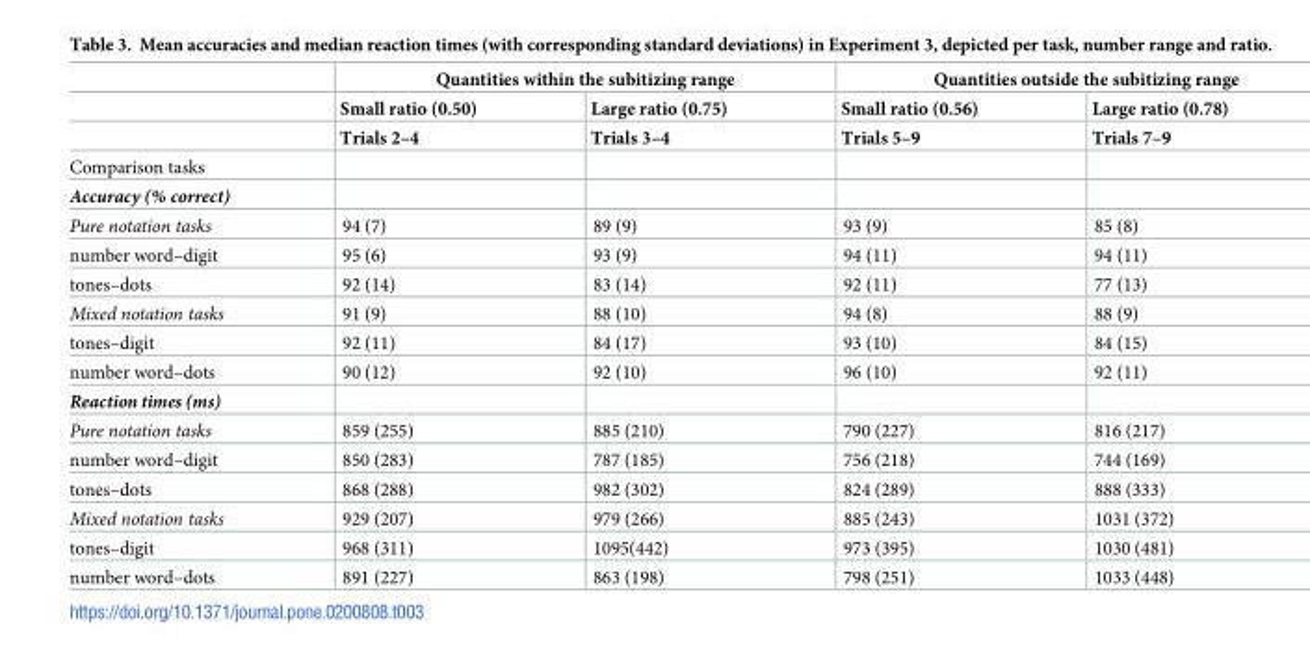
<table><thead><tr><td rowspan="3"></td><td colspan="2">Quantities within the subitizing range</td><td colspan="2">Quantities outside the subitizing range</td></tr><tr><td rowspan="2">Small ratio (0.50) Trials 2–4</td><td rowspan="2">Large ratio (0.75) Trials 3–4</td><td rowspan="2">Small ratio (0.56) Trials 5–9</td><td rowspan="2">Large ratio (0.78) Trials 7–9</td></tr><tr></tr></thead><tbody><tr><td colspan="5">Comparison tasks</td></tr><tr><td colspan="5">Accuracy (% correct)</td></tr><tr><td>Pure notation tasks</td><td>94 (7)</td><td>89 (9)</td><td>93 (9)</td><td>85 (8)</td></tr><tr><td>number word–digit</td><td>95 (6)</td><td>93 (9)</td><td>94 (11)</td><td>94 (11)</td></tr><tr><td>tones–dots</td><td>92 (14)</td><td>83 (14)</td><td>92 (11)</td><td>77 (13)</td></tr><tr><td>Mixed notation tasks</td><td>91 (9)</td><td>88 (10)</td><td>94 (8)</td><td>88 (9)</td></tr><tr><td>tones–digit</td><td>92 (11)</td><td>84 (17)</td><td>93 (10)</td><td>84 (15)</td></tr><tr><td>number word–dots</td><td>90 (12)</td><td>92 (10)</td><td>96 (10)</td><td>92 (11)</td></tr><tr><td colspan="5">Reaction times (ms)</td></tr><tr><td>Pure notation tasks</td><td>859 (255)</td><td>885 (210)</td><td>790 (227)</td><td>816 (217)</td></tr><tr><td>number word–digit</td><td>850 (283)</td><td>787 (185)</td><td>756 (218)</td><td>744 (169)</td></tr><tr><td>tones–dots</td><td>868 (288)</td><td>982 (302)</td><td>824 (289)</td><td>888 (333)</td></tr><tr><td>Mixed notation tasks</td><td>929 (207)</td><td>979 (266)</td><td>885 (243)</td><td>1031 (372)</td></tr><tr><td>tones–digit</td><td>968 (311)</td><td>1095(442)</td><td>973 (395)</td><td>1030 (481)</td></tr><tr><td>number word–dots</td><td>891 (227)</td><td>863 (198)</td><td>798 (251)</td><td>1033 (448)</td></tr></tbody></table>